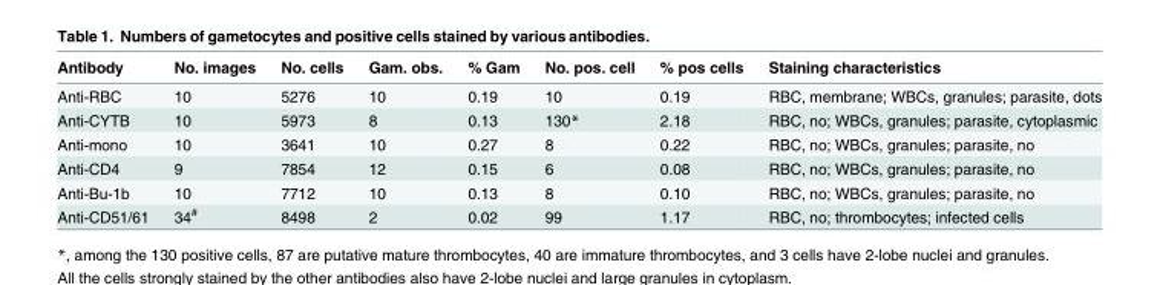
<table><thead><tr><td>Antibody</td><td>No. images</td><td>No. cells</td><td>Gam. obs.</td><td>% Gam</td><td>No. pos. cell</td><td>% pos cells</td><td>Staining characteristics</td></tr></thead><tbody><tr><td>Anti-RBC</td><td>10</td><td>5276</td><td>10</td><td>0.19</td><td>10</td><td>0.19</td><td>RBC, membrane; WBCs, granules; parasite, dots</td></tr><tr><td>Anti-CYTB</td><td>10</td><td>5973</td><td>8</td><td>0.13</td><td>130*</td><td>2.18</td><td>RBC, no; WBCs, granules; parasite, cytoplasmic</td></tr><tr><td>Anti-mono</td><td>10</td><td>3641</td><td>10</td><td>0.27</td><td>8</td><td>0.22</td><td>RBC, no; WBCs, granules; parasite, no</td></tr><tr><td>Anti-CD4</td><td>9</td><td>7854</td><td>12</td><td>0.15</td><td>6</td><td>0.08</td><td>RBC, no; WBCs, granules; parasite, no</td></tr><tr><td>Anti-Bu-1b</td><td>10</td><td>7712</td><td>10</td><td>0.13</td><td>8</td><td>0.10</td><td>RBC, no; WBCs, granules; parasite, no</td></tr><tr><td>Anti-CD51/61</td><td>34<sup>#</sup></td><td>8498</td><td>2</td><td>0.02</td><td>99</td><td>1.17</td><td>RBC, no; thrombocytes; infected cells</td></tr></tbody></table>